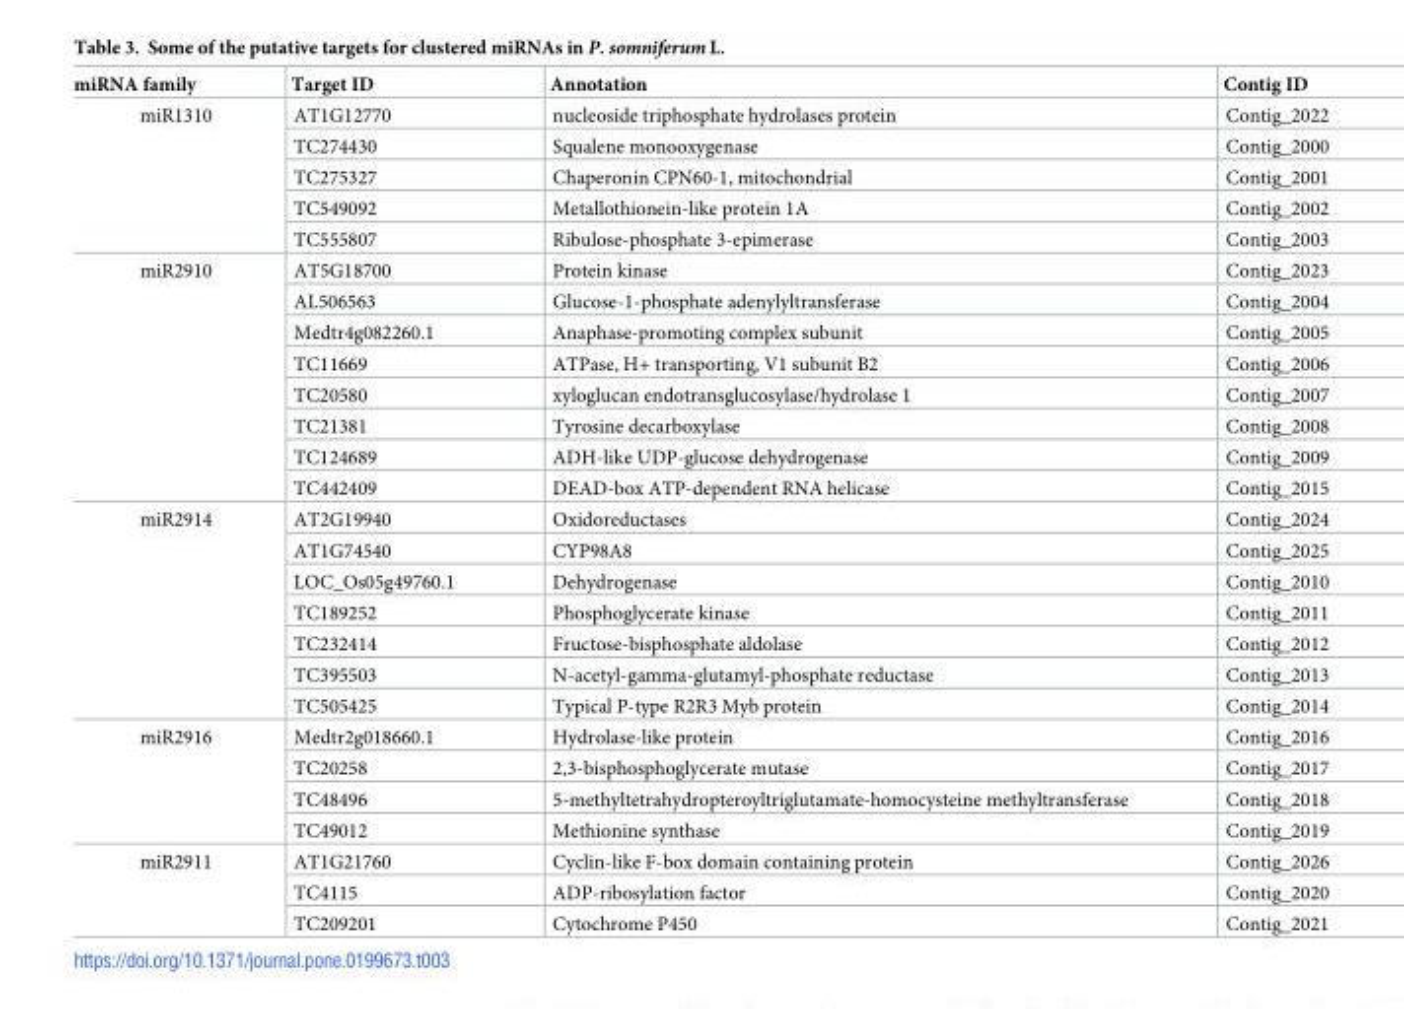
<table><thead><tr><td>miRNA family</td><td>Target ID</td><td>Annotation</td><td>Contig ID</td></tr></thead><tbody><tr><td rowspan="5">miR1310</td><td>AT1G12770</td><td>nucleoside triphosphate hydrolases protein</td><td>Contig_2022</td></tr><tr><td>TC274430</td><td>Squalene monooxygenase</td><td>Contig_2000</td></tr><tr><td>TC275327</td><td>Chaperonin CPN60-1, mitochondrial</td><td>Contig_2001</td></tr><tr><td>TC549092</td><td>Metallothionein-like protein 1A</td><td>Contig_2002</td></tr><tr><td>TC555807</td><td>Ribulose-phosphate 3-epimerase</td><td>Contig_2003</td></tr><tr><td rowspan="8">miR2910</td><td>AT5G18700</td><td>Protein kinase</td><td>Contig_2023</td></tr><tr><td>AL506563</td><td>Glucose-1-phosphate adenylyltransferase</td><td>Contig_2004</td></tr><tr><td>Medtr4g082260.1</td><td>Anaphase-promoting complex subunit</td><td>Contig_2005</td></tr><tr><td>TC11669</td><td>ATPase, H+ transporting, V1 subunit B2</td><td>Contig_2006</td></tr><tr><td>TC20580</td><td>xyloglucan endotransglucosylase/hydrolase 1</td><td>Contig_2007</td></tr><tr><td>TC21381</td><td>Tyrosine decarboxylase</td><td>Contig_2008</td></tr><tr><td>TC124689</td><td>ADH-like UDP-glucose dehydrogenase</td><td>Contig_2009</td></tr><tr><td>TC442409</td><td>DEAD-box ATP-dependent RNA helicase</td><td>Contig_2015</td></tr><tr><td rowspan="7">miR2914</td><td>AT2G19940</td><td>Oxidoreductases</td><td>Contig_2024</td></tr><tr><td>AT1G74540</td><td>CYP98A8</td><td>Contig_2025</td></tr><tr><td>LOC_Os05g49760.1</td><td>Dehydrogenase</td><td>Contig_2010</td></tr><tr><td>TC189252</td><td>Phosphoglycerate kinase</td><td>Contig_2011</td></tr><tr><td>TC232414</td><td>Fructose-bisphosphate aldolase</td><td>Contig_2012</td></tr><tr><td>TC395503</td><td>N-acetyl-gamma-glutamyl-phosphate reductase</td><td>Contig_2013</td></tr><tr><td>TC505425</td><td>Typical P-type R2R3 Myb protein</td><td>Contig_2014</td></tr><tr><td rowspan="4">miR2916</td><td>Medtr2g018660.1</td><td>Hydrolase-like protein</td><td>Contig_2016</td></tr><tr><td>TC20258</td><td>2,3-bisphosphoglycerate mutase</td><td>Contig_2017</td></tr><tr><td>TC48496</td><td>5-methyltetrahydropteroyltriglutamate-homocysteine methyltransferase</td><td>Contig_2018</td></tr><tr><td>TC49012</td><td>Methionine synthase</td><td>Contig_2019</td></tr><tr><td rowspan="3">miR2911</td><td>AT1G21760</td><td>Cyclin-like F-box domain containing protein</td><td>Contig_2026</td></tr><tr><td>TC4115</td><td>ADP-ribosylation factor</td><td>Contig_2020</td></tr><tr><td>TC209201</td><td>Cytochrome P450</td><td>Contig_2021</td></tr></tbody></table>